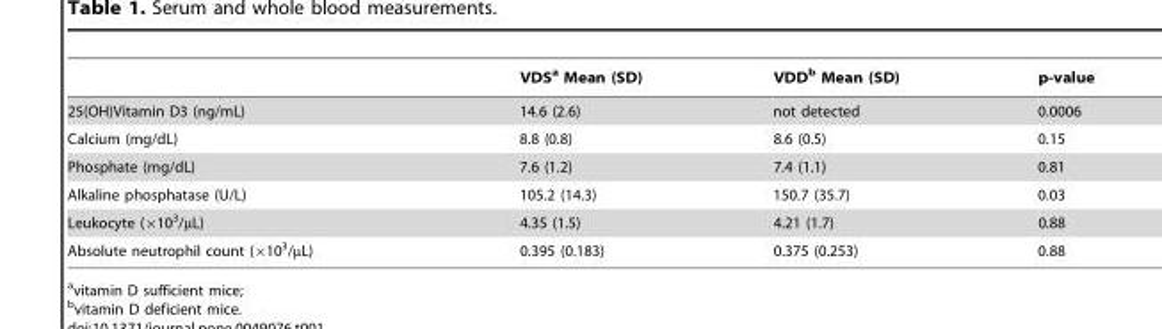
<table><thead><tr><td></td><td>VDS<sup>a</sup> Mean (SD)</td><td>VDD<sup>b</sup> Mean (SD)</td><td>p-value</td></tr></thead><tbody><tr><td>25(OH)Vitamin D3 (ng/mL)</td><td>14.6 (2.6)</td><td>not detected</td><td>0.0006</td></tr><tr><td>Calcium (mg/dL)</td><td>8.8 (0.8)</td><td>8.6 (0.5)</td><td>0.15</td></tr><tr><td>Phosphate (mg/dL)</td><td>7.6 (1.2)</td><td>7.4 (1.1)</td><td>0.81</td></tr><tr><td>Alkaline phosphatase (U/L)</td><td>105.2 (14.3)</td><td>150.7 (35.7)</td><td>0.03</td></tr><tr><td>Leukocyte (×10<sup>3</sup>/µL)</td><td>4.35 (1.5)</td><td>4.21 (1.7)</td><td>0.88</td></tr><tr><td>Absolute neutrophil count (×10<sup>3</sup>/µL)</td><td>0.395 (0.183)</td><td>0.375 (0.253)</td><td>0.88</td></tr></tbody></table>